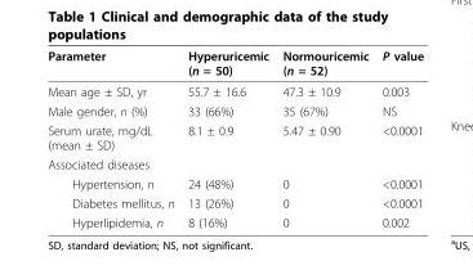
<table><thead><tr><td>Parameter</td><td>Hyperuricemic (n = 50)</td><td>Normouricemic (n = 52)</td><td>P value</td></tr></thead><tbody><tr><td>Mean age ± SD, yr</td><td>55.7 ± 16.6</td><td>47.3 ± 10.9</td><td>0.003</td></tr><tr><td>Male gender, n (%)</td><td>33 (66%)</td><td>35 (67%)</td><td>NS</td></tr><tr><td>Serum urate, mg/dL (mean ± SD)</td><td>8.1 ± 0.9</td><td>5.47 ± 0.90</td><td>&lt;0.0001</td></tr><tr><td colspan="4">Associated diseases</td></tr><tr><td>Hypertension, n</td><td>24 (48%)</td><td>0</td><td>&lt;0.0001</td></tr><tr><td>Diabetes mellitus, n</td><td>13 (26%)</td><td>0</td><td>&lt;0.0001</td></tr><tr><td>Hyperlipidemia, n</td><td>8 (16%)</td><td>0</td><td>0.002</td></tr></tbody></table>